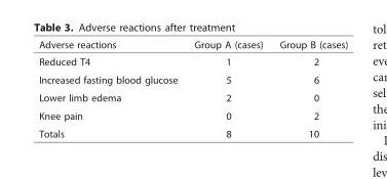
<table><thead><tr><td>Adverse reactions</td><td>Group A (cases)</td><td>Group B (cases)</td></tr></thead><tbody><tr><td>Reduced T4</td><td>1</td><td>2</td></tr><tr><td>Increased fasting blood glucose</td><td>5</td><td>6</td></tr><tr><td>Lower limb edema</td><td>2</td><td>0</td></tr><tr><td>Knee pain</td><td>0</td><td>2</td></tr><tr><td>Totals</td><td>8</td><td>10</td></tr></tbody></table>